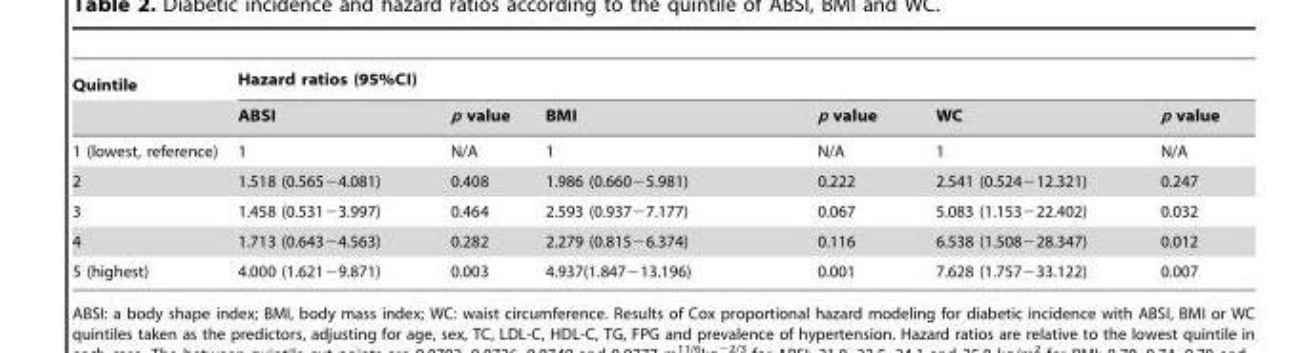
<table><thead><tr><td rowspan="2">Quintile</td><td colspan="6">Hazard ratios (95%CI)</td></tr><tr><td>ABSI</td><td>p value</td><td>BMI</td><td>p value</td><td>WC</td><td>p value</td></tr></thead><tbody><tr><td>1 (lowest, reference)</td><td>1</td><td>N/A</td><td>1</td><td>N/A</td><td>1</td><td>N/A</td></tr><tr><td>2</td><td>1.518 (0.565−4.081)</td><td>0.408</td><td>1.986 (0.660−5.981)</td><td>0.222</td><td>2.541 (0.524−12.321)</td><td>0.247</td></tr><tr><td>3</td><td>1.458 (0.531−3.997)</td><td>0.464</td><td>2.593 (0.937−7.177)</td><td>0.067</td><td>5.083 (1.153−22.402)</td><td>0.032</td></tr><tr><td>4</td><td>1.713 (0.643−4.563)</td><td>0.282</td><td>2.279 (0.815−6.374)</td><td>0.116</td><td>6.538 (1.508−28.347)</td><td>0.012</td></tr><tr><td>5 (highest)</td><td>4.000 (1.621−9.871)</td><td>0.003</td><td>4.937(1.847−13.196)</td><td>0.001</td><td>7.628 (1.757−33.122)</td><td>0.007</td></tr></tbody></table>